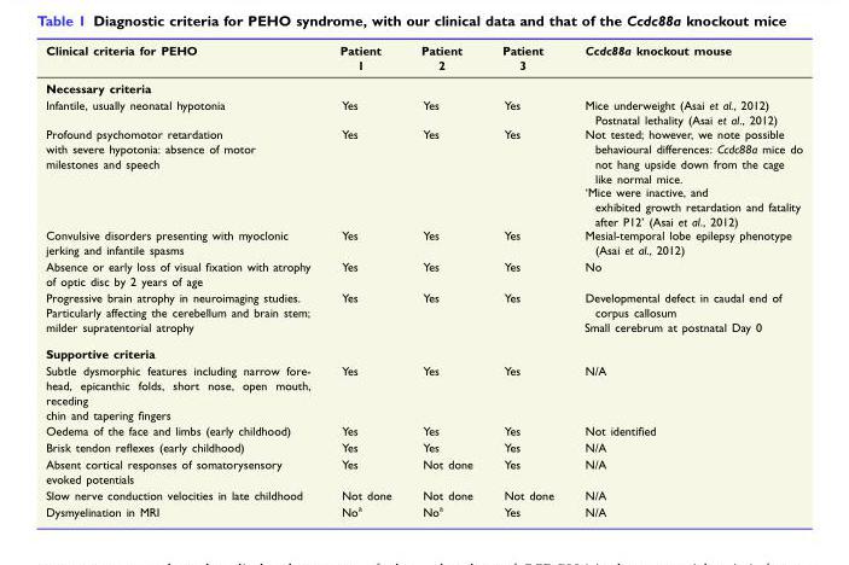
<table><thead><tr><td>Clinical criteria for PEHO</td><td>Patient 1</td><td>Patient 2</td><td>Patient 3</td><td>Ccdc88a knockout mouse</td></tr></thead><tbody><tr><td colspan="5">Necessary criteria</td></tr><tr><td>Infantile, usually neonatal hypotonia</td><td>Yes</td><td>Yes</td><td>Yes</td><td>Mice underweight (Asai et al., 2012) Postnatal lethality (Asai et al., 2012)</td></tr><tr><td rowspan="2">Profound psychomotor retardation with severe hypotonia: absence of motor milestones and speech</td><td>Yes</td><td>Yes</td><td>Yes</td><td>Not tested; however, we note possible behavioural differences: Ccdc88a mice do not hang upside down from the cage like normal mice.</td></tr><tr><td></td><td></td><td></td><td>‘Mice were inactive, and exhibited growth retardation and fatality after P12’ (Asai et al., 2012)</td></tr><tr><td>Convulsive disorders presenting with myoclonic jerking and infantile spasms</td><td>Yes</td><td>Yes</td><td>Yes</td><td>Mesial-temporal lobe epilepsy phenotype (Asai et al., 2012)</td></tr><tr><td>Absence or early loss of visual fixation with atrophy of optic disc by 2 years of age</td><td>Yes</td><td>Yes</td><td>Yes</td><td>No</td></tr><tr><td>Progressive brain atrophy in neuroimaging studies. Particularly affecting the cerebellum and brain stem; milder supratentorial atrophy</td><td>Yes</td><td>Yes</td><td>Yes</td><td>Developmental defect in caudal end of corpus callosum Small cerebrum at postnatal Day 0</td></tr><tr><td colspan="5">Supportive criteria</td></tr><tr><td>Subtle dysmorphic features including narrow fore- head, epicanthic folds, short nose, open mouth, receding chin and tapering fingers</td><td>Yes</td><td>Yes</td><td>Yes</td><td>N/A</td></tr><tr><td>Oedema of the face and limbs (early childhood)</td><td>Yes</td><td>Yes</td><td>Yes</td><td>Not identified</td></tr><tr><td>Brisk tendon reflexes (early childhood)</td><td>Yes</td><td>Yes</td><td>Yes</td><td>N/A</td></tr><tr><td>Absent cortical responses of somatorysensory evoked potentials</td><td>Yes</td><td>Not done</td><td>Yes</td><td>N/A</td></tr><tr><td>Slow nerve conduction velocities in late childhood</td><td>Not done</td><td>Not done</td><td>Not done</td><td>N/A</td></tr><tr><td>Dysmyelination in MRI</td><td>No<sup>a</sup></td><td>No<sup>a</sup></td><td>Yes</td><td>N/A</td></tr></tbody></table>